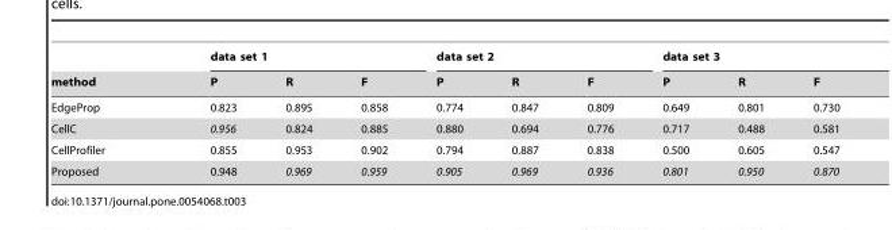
<table><thead><tr><td rowspan="2">method</td><td colspan="3">data set 1</td><td colspan="3">data set 2</td><td colspan="3">data set 3</td></tr><tr><td>P</td><td>R</td><td>F</td><td>P</td><td>R</td><td>F</td><td>P</td><td>R</td><td>F</td></tr></thead><tbody><tr><td>EdgeProp</td><td>0.823</td><td>0.895</td><td>0.858</td><td>0.774</td><td>0.847</td><td>0.809</td><td>0.649</td><td>0.801</td><td>0.730</td></tr><tr><td>CellC</td><td>0.956</td><td>0.824</td><td>0.885</td><td>0.880</td><td>0.694</td><td>0.776</td><td>0.717</td><td>0.488</td><td>0.581</td></tr><tr><td>CellProfiler</td><td>0.855</td><td>0.953</td><td>0.902</td><td>0.794</td><td>0.887</td><td>0.838</td><td>0.500</td><td>0.605</td><td>0.547</td></tr><tr><td>Proposed</td><td>0.948</td><td>0.969</td><td>0.959</td><td>0.905</td><td>0.969</td><td>0.936</td><td>0.801</td><td>0.950</td><td>0.870</td></tr></tbody></table>